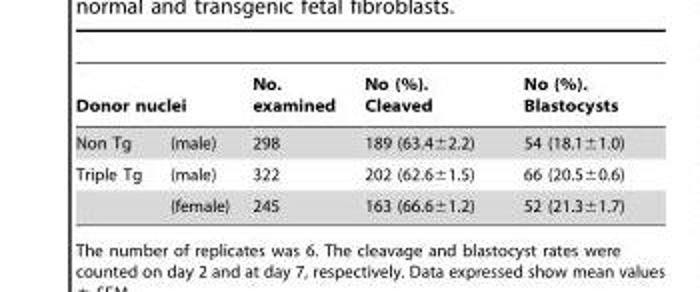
<table><thead><tr><td colspan="2">Donor nuclei</td><td rowspan="2">No. examined 298</td><td rowspan="2">No (%). Cleaved 189 (63.4±2.2)</td><td rowspan="2">No (%). Blastocysts 54 (18.1±1.0)</td></tr><tr><td>Non Tg</td><td>(male)</td></tr></thead><tbody><tr><td rowspan="2">Triple Tg</td><td>(male)</td><td>322</td><td>202 (62.6±1.5)</td><td>66 (20.5±0.6)</td></tr><tr><td>(female)</td><td>245</td><td>163 (66.6±1.2)</td><td>52 (21.3±1.7)</td></tr></tbody></table>